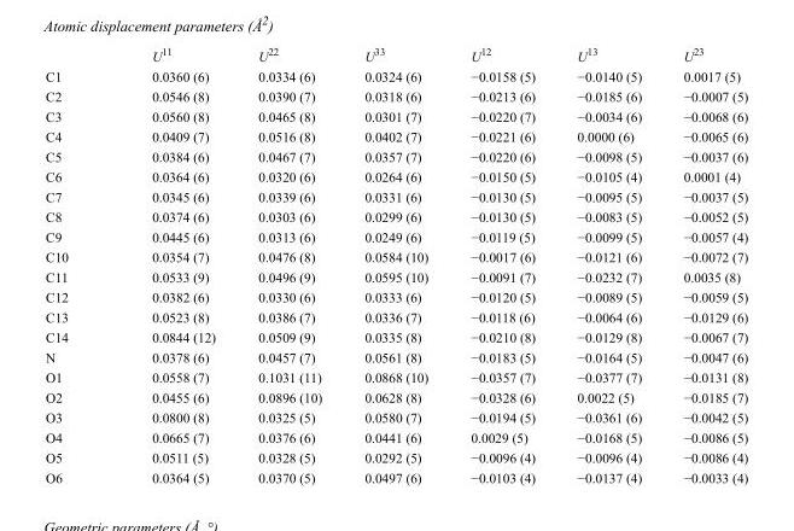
<table><thead><tr><td></td><td>U<sup>11</sup></td><td>U<sup>22</sup></td><td>U<sup>33</sup></td><td>U<sup>12</sup></td><td>U<sup>13</sup></td><td>U<sup>23</sup></td></tr></thead><tbody><tr><td>C1</td><td>0.0360 (6)</td><td>0.0334 (6)</td><td>0.0324 (6)</td><td>−0.0158 (5)</td><td>−0.0140 (5)</td><td>0.0017 (5)</td></tr><tr><td>C2</td><td>0.0546 (8)</td><td>0.0390 (7)</td><td>0.0318 (6)</td><td>−0.0213 (6)</td><td>−0.0185 (6)</td><td>−0.0007 (5)</td></tr><tr><td>C3</td><td>0.0560 (8)</td><td>0.0465 (8)</td><td>0.0301 (7)</td><td>−0.0220 (7)</td><td>−0.0034 (6)</td><td>−0.0068 (6)</td></tr><tr><td>C4</td><td>0.0409 (7)</td><td>0.0516 (8)</td><td>0.0402 (7)</td><td>−0.0221 (6)</td><td>0.0000 (6)</td><td>−0.0065 (6)</td></tr><tr><td>C5</td><td>0.0384 (6)</td><td>0.0467 (7)</td><td>0.0357 (7)</td><td>−0.0220 (6)</td><td>−0.0098 (5)</td><td>−0.0037 (6)</td></tr><tr><td>C6</td><td>0.0364 (6)</td><td>0.0320 (6)</td><td>0.0264 (6)</td><td>−0.0150 (5)</td><td>−0.0105 (4)</td><td>0.0001 (4)</td></tr><tr><td>C7</td><td>0.0345 (6)</td><td>0.0339 (6)</td><td>0.0331 (6)</td><td>−0.0130 (5)</td><td>−0.0095 (5)</td><td>−0.0037 (5)</td></tr><tr><td>C8</td><td>0.0374 (6)</td><td>0.0303 (6)</td><td>0.0299 (6)</td><td>−0.0130 (5)</td><td>−0.0083 (5)</td><td>−0.0052 (5)</td></tr><tr><td>C9</td><td>0.0445 (6)</td><td>0.0313 (6)</td><td>0.0249 (6)</td><td>−0.0119 (5)</td><td>−0.0099 (5)</td><td>−0.0057 (4)</td></tr><tr><td>C10</td><td>0.0354 (7)</td><td>0.0476 (8)</td><td>0.0584 (10)</td><td>−0.0017 (6)</td><td>−0.0121 (6)</td><td>−0.0072 (7)</td></tr><tr><td>C11</td><td>0.0533 (9)</td><td>0.0496 (9)</td><td>0.0595 (10)</td><td>−0.0091 (7)</td><td>−0.0232 (7)</td><td>0.0035 (8)</td></tr><tr><td>C12</td><td>0.0382 (6)</td><td>0.0330 (6)</td><td>0.0333 (6)</td><td>−0.0120 (5)</td><td>−0.0089 (5)</td><td>−0.0059 (5)</td></tr><tr><td>C13</td><td>0.0523 (8)</td><td>0.0386 (7)</td><td>0.0336 (7)</td><td>−0.0118 (6)</td><td>−0.0064 (6)</td><td>−0.0129 (6)</td></tr><tr><td>C14</td><td>0.0844 (12)</td><td>0.0509 (9)</td><td>0.0335 (8)</td><td>−0.0210 (8)</td><td>−0.0129 (8)</td><td>−0.0067 (7)</td></tr><tr><td>N</td><td>0.0378 (6)</td><td>0.0457 (7)</td><td>0.0561 (8)</td><td>−0.0183 (5)</td><td>−0.0164 (5)</td><td>−0.0047 (6)</td></tr><tr><td>O1</td><td>0.0558 (7)</td><td>0.1031 (11)</td><td>0.0868 (10)</td><td>−0.0357 (7)</td><td>−0.0377 (7)</td><td>−0.0131 (8)</td></tr><tr><td>O2</td><td>0.0455 (6)</td><td>0.0896 (10)</td><td>0.0628 (8)</td><td>−0.0328 (6)</td><td>0.0022 (5)</td><td>−0.0185 (7)</td></tr><tr><td>O3</td><td>0.0800 (8)</td><td>0.0325 (5)</td><td>0.0580 (7)</td><td>−0.0194 (5)</td><td>−0.0361 (6)</td><td>−0.0042 (5)</td></tr><tr><td>O4</td><td>0.0665 (7)</td><td>0.0376 (6)</td><td>0.0441 (6)</td><td>0.0029 (5)</td><td>−0.0168 (5)</td><td>−0.0086 (5)</td></tr><tr><td>O5</td><td>0.0511 (5)</td><td>0.0328 (5)</td><td>0.0292 (5)</td><td>−0.0096 (4)</td><td>−0.0096 (4)</td><td>−0.0086 (4)</td></tr><tr><td>O6</td><td>0.0364 (5)</td><td>0.0370 (5)</td><td>0.0497 (6)</td><td>−0.0103 (4)</td><td>−0.0137 (4)</td><td>−0.0033 (4)</td></tr></tbody></table>